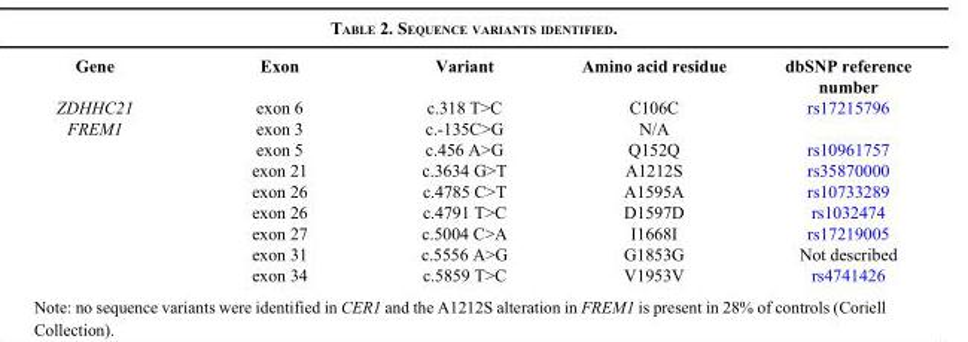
<table><thead><tr><td>Gene</td><td>Exon</td><td>Variant</td><td>Amino acid residue</td><td>dbSNP reference number</td></tr></thead><tbody><tr><td>ZDHHC21</td><td>exon 6</td><td>c.318 T&gt;C</td><td>C106C</td><td>rs17215796</td></tr><tr><td rowspan="8">FREM1</td><td>exon 3</td><td>c.-135C&gt;G</td><td>N/A</td><td></td></tr><tr><td>exon 5</td><td>c.456 A&gt;G</td><td>Q152Q</td><td>rs10961757</td></tr><tr><td>exon 21</td><td>c.3634 G&gt;T</td><td>A1212S</td><td>rs35870000</td></tr><tr><td>exon 26</td><td>c.4785 C&gt;T</td><td>A1595A</td><td>rs10733289</td></tr><tr><td>exon 26</td><td>c.4791 T&gt;C</td><td>D1597D</td><td>rs1032474</td></tr><tr><td>exon 27</td><td>c.5004 C&gt;A</td><td>I1668I</td><td>rs17219005</td></tr><tr><td>exon 31</td><td>c.5556 A&gt;G</td><td>G1853G</td><td>Not described</td></tr><tr><td>exon 34</td><td>c.5859 T&gt;C</td><td>V1953V</td><td>rs4741426</td></tr></tbody></table>